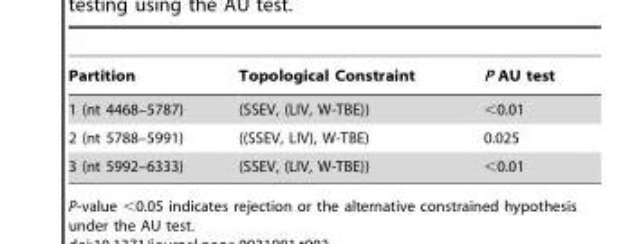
<table><thead><tr><td>Partition</td><td>Topological Constraint</td><td>P AU test</td></tr></thead><tbody><tr><td>1 (nt 4468–5787)</td><td>(SSEV, (LIV, W-TBE))</td><td>&lt;0.01</td></tr><tr><td>2 (nt 5788–5991)</td><td>((SSEV, LIV), W-TBE)</td><td>0.025</td></tr><tr><td>3 (nt 5992–6333)</td><td>(SSEV, (LIV, W-TBE))</td><td>&lt;0.01</td></tr></tbody></table>